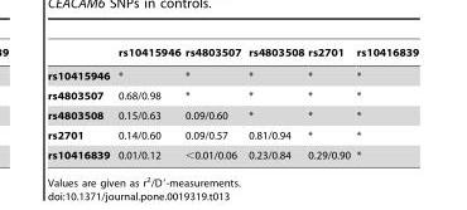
<table><thead><tr><td></td><td>rs10415946</td><td>rs4803507</td><td>rs4803508</td><td>rs2701</td><td>rs10416839</td></tr></thead><tbody><tr><td>rs10415946</td><td>*</td><td>*</td><td>*</td><td>*</td><td>*</td></tr><tr><td>rs4803507</td><td>0.68/0.98</td><td>*</td><td>*</td><td>*</td><td>*</td></tr><tr><td>rs4803508</td><td>0.15/0.63</td><td>0.09/0.60</td><td>*</td><td>*</td><td>*</td></tr><tr><td>rs2701</td><td>0.14/0.60</td><td>0.09/0.57</td><td>0.81/0.94</td><td>*</td><td>*</td></tr><tr><td>rs10416839</td><td>0.01/0.12</td><td>&lt;0.01/0.06</td><td>0.23/0.84</td><td>0.29/0.90</td><td>*</td></tr></tbody></table>